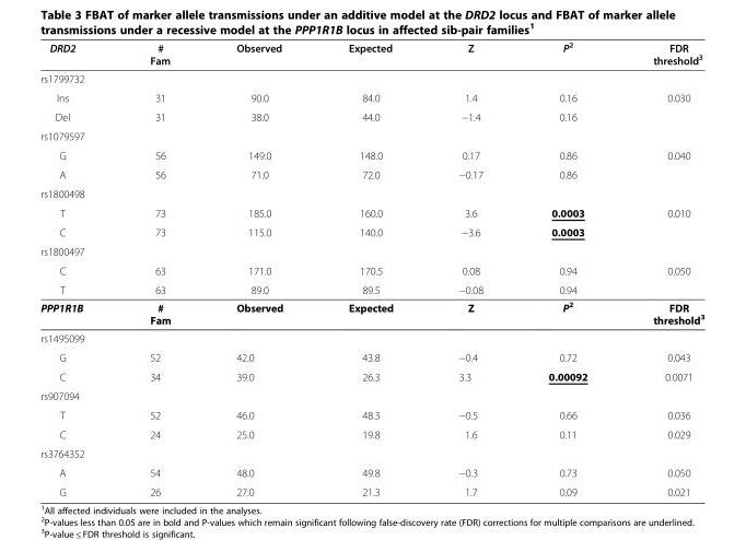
<table><thead><tr><td>DRD2</td><td># Fam</td><td>Observed</td><td>Expected</td><td>Z</td><td>P2</td><td>FDR threshold<sup>3</sup></td></tr></thead><tbody><tr><td colspan="7">rs1799732</td></tr><tr><td>Ins</td><td>31</td><td>90.0</td><td>84.0</td><td>1.4</td><td>0.16</td><td>0.030</td></tr><tr><td>Del</td><td>31</td><td>38.0</td><td>44.0</td><td>−1.4</td><td>0.16</td><td></td></tr><tr><td colspan="7">rs1079597</td></tr><tr><td>G</td><td>56</td><td>149.0</td><td>148.0</td><td>0.17</td><td>0.86</td><td>0.040</td></tr><tr><td>A</td><td>56</td><td>71.0</td><td>72.0</td><td>−0.17</td><td>0.86</td><td></td></tr><tr><td colspan="7">rs1800498</td></tr><tr><td>T</td><td>73</td><td>185.0</td><td>160.0</td><td>3.6</td><td>0.0003</td><td>0.010</td></tr><tr><td>C</td><td>73</td><td>115.0</td><td>140.0</td><td>−3.6</td><td>0.0003</td><td></td></tr><tr><td colspan="7">rs1800497</td></tr><tr><td>C</td><td>63</td><td>171.0</td><td>170.5</td><td>0.08</td><td>0.94</td><td>0.050</td></tr><tr><td>T</td><td>63</td><td>89.0</td><td>89.5</td><td>−0.08</td><td>0.94</td><td></td></tr><tr><td>PPP1R1B</td><td># Fam</td><td>Observed</td><td>Expected</td><td>Z</td><td>P<sup>2</sup></td><td>FDR threshold<sup>3</sup></td></tr><tr><td colspan="7">rs1495099</td></tr><tr><td>G</td><td>52</td><td>42.0</td><td>43.8</td><td>−0.4</td><td>0.72</td><td>0.043</td></tr><tr><td>C</td><td>34</td><td>39.0</td><td>26.3</td><td>3.3</td><td>0.00092</td><td>0.0071</td></tr><tr><td colspan="7">rs907094</td></tr><tr><td>T</td><td>52</td><td>46.0</td><td>48.3</td><td>−0.5</td><td>0.66</td><td>0.036</td></tr><tr><td>C</td><td>24</td><td>25.0</td><td>19.8</td><td>1.6</td><td>0.11</td><td>0.029</td></tr><tr><td colspan="7">rs3764352</td></tr><tr><td>A</td><td>54</td><td>48.0</td><td>49.8</td><td>−0.3</td><td>0.73</td><td>0.050</td></tr><tr><td>G</td><td>26</td><td>27.0</td><td>21.3</td><td>1.7</td><td>0.09</td><td>0.021</td></tr></tbody></table>